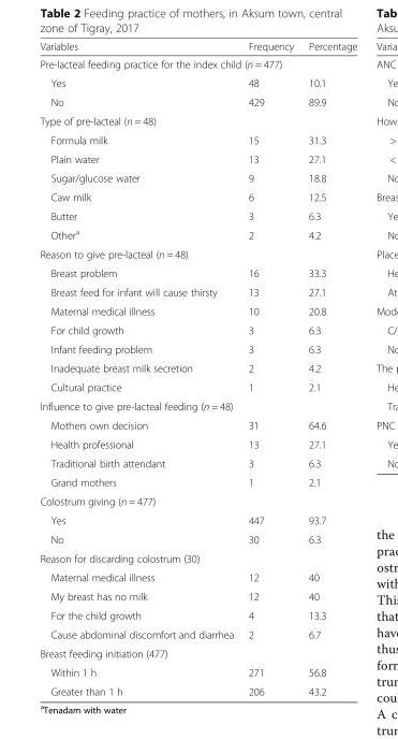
<table><thead><tr><td>Variables</td><td>Frequency</td><td>Percentage</td></tr></thead><tbody><tr><td colspan="3">Pre-lacteal feeding practice for the index child (n = 477)</td></tr><tr><td>Yes</td><td>48</td><td>10.1</td></tr><tr><td>No</td><td>429</td><td>89.9</td></tr><tr><td colspan="3">Type of pre-lacteal (n = 48)</td></tr><tr><td>Formula milk</td><td>15</td><td>31.3</td></tr><tr><td>Plain water</td><td>13</td><td>27.1</td></tr><tr><td>Sugar/glucose water</td><td>9</td><td>18.8</td></tr><tr><td>Caw milk</td><td>6</td><td>12.5</td></tr><tr><td>Butter</td><td>3</td><td>6.3</td></tr><tr><td>Other<sup>a</sup></td><td>2</td><td>4.2</td></tr><tr><td colspan="3">Reason to give pre-lacteal (n = 48)</td></tr><tr><td>Breast problem</td><td>16</td><td>33.3</td></tr><tr><td>Breast feed for infant will cause thirsty</td><td>13</td><td>27.1</td></tr><tr><td>Maternal medical illness</td><td>10</td><td>20.8</td></tr><tr><td>For child growth</td><td>3</td><td>6.3</td></tr><tr><td>Infant feeding problem</td><td>3</td><td>6.3</td></tr><tr><td>Inadequate breast milk secretion</td><td>2</td><td>4.2</td></tr><tr><td>Cultural practice</td><td>1</td><td>2.1</td></tr><tr><td colspan="3">Influence to give pre-lacteal feeding (n = 48)</td></tr><tr><td>Mothers own decision</td><td>31</td><td>64.6</td></tr><tr><td>Health professional</td><td>13</td><td>27.1</td></tr><tr><td>Traditional birth attendant</td><td>3</td><td>6.3</td></tr><tr><td>Grand mothers</td><td>1</td><td>2.1</td></tr><tr><td colspan="3">Colostrum giving (n = 477)</td></tr><tr><td>Yes</td><td>447</td><td>93.7</td></tr><tr><td>No</td><td>30</td><td>6.3</td></tr><tr><td colspan="3">Reason for discarding colostrum (30)</td></tr><tr><td>Maternal medical illness</td><td>12</td><td>40</td></tr><tr><td>My breast has no milk</td><td>12</td><td>40</td></tr><tr><td>For the child growth</td><td>4</td><td>13.3</td></tr><tr><td>Cause abdominal discomfort and diarrhea</td><td>2</td><td>6.7</td></tr><tr><td colspan="3">Breast feeding initiation (477)</td></tr><tr><td>Within 1 h</td><td>271</td><td>56.8</td></tr><tr><td>Greater than 1 h</td><td>206</td><td>43.2</td></tr></tbody></table>